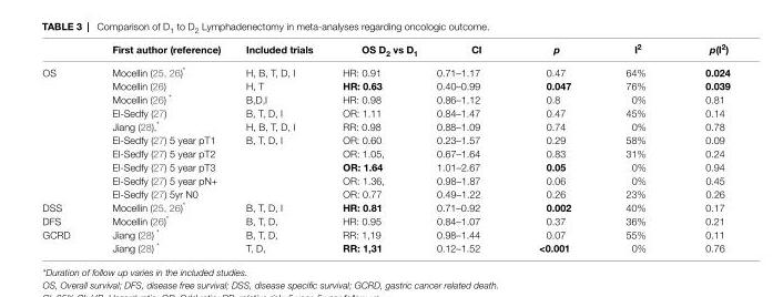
<table><thead><tr><td></td><td>First author (reference)</td><td>included trials</td><td>oS D<sub>2</sub> vs D<sub>1</sub></td><td>Ci</td><td>p</td><td>i<sup>2</sup></td><td>p(i<sup>2</sup>)</td></tr></thead><tbody><tr><td rowspan="10">OS</td><td>Mocellin (25, 26)*</td><td>H, B, T, D, I</td><td>HR: 0.91</td><td>0.71–1.17</td><td>0.47</td><td>64%</td><td>0.024</td></tr><tr><td>Mocellin (26)</td><td>H, T</td><td>hR: 0.63</td><td>0.40–0.99</td><td>0.047</td><td>76%</td><td>0.039</td></tr><tr><td>Mocellin (26) *</td><td>B,D,I</td><td>HR: 0.98</td><td>0.86–1.12</td><td>0.8</td><td>0%</td><td>0.81</td></tr><tr><td>El-Sedfy (27)</td><td>B, T, D, I</td><td>OR: 1.11</td><td>0.84–1.47</td><td>0.47</td><td>45%</td><td>0.14</td></tr><tr><td>Jiang (28),*</td><td>H, B, T, D, I</td><td>RR: 0.98</td><td>0.88–1.09</td><td>0.74</td><td>0%</td><td>0.78</td></tr><tr><td>El-Sedfy (27) 5 year pT1</td><td rowspan="5">B, T, D, I</td><td>OR: 0.60</td><td>0.23–1.57</td><td>0.29</td><td>58%</td><td>0.09</td></tr><tr><td>El-Sedfy (27) 5 year pT2</td><td>OR: 1.05,</td><td>0.67–1.64</td><td>0.83</td><td>31%</td><td>0.24</td></tr><tr><td>El-Sedfy (27) 5 year pT3</td><td>oR: 1.64</td><td>1.01–2.67</td><td>0.05</td><td>0%</td><td>0.94</td></tr><tr><td>El-Sedfy (27) 5 year pN+</td><td>OR: 1.36,</td><td>0.98–1.87</td><td>0.06</td><td>0%</td><td>0.45</td></tr><tr><td>El-Sedfy (27) 5yr N0</td><td>OR: 0.77</td><td>0.49–1.22</td><td>0.26</td><td>23%</td><td>0.26</td></tr><tr><td>DSS</td><td>Mocellin (25, 26)*</td><td>B, T, D, I</td><td>hR: 0.81</td><td>0.71–0.92</td><td>0.002</td><td>40%</td><td>0.17</td></tr><tr><td>DFS</td><td>Mocellin (26)*</td><td>B, T, D,</td><td>HR: 0.95</td><td>0.84–1.07</td><td>0.37</td><td>36%</td><td>0.21</td></tr><tr><td rowspan="2">GCRD</td><td>Jiang (28) *</td><td>B, T, D,</td><td>RR: 1,19</td><td>0.98–1.44</td><td>0.07</td><td>55%</td><td>0.11</td></tr><tr><td>Jiang (28) *</td><td>T, D,</td><td>RR: 1,31</td><td>0.12–1.52</td><td>&lt;0.001</td><td>0%</td><td>0.76</td></tr></tbody></table>